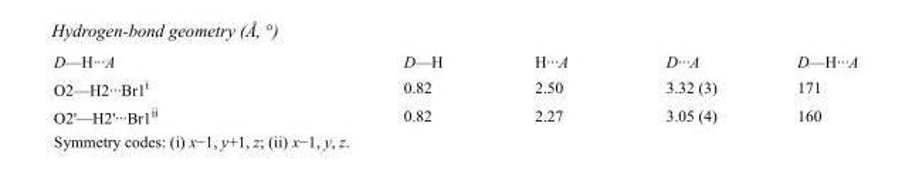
<table><tbody><tr><td>D—H···A</td><td>D—H</td><td>H···A</td><td>D···A</td><td>D—H···A</td></tr><tr><td>O2—H2···Br1<sup>i</sup></td><td>0.82</td><td>2.50</td><td>3.32 (3)</td><td>171</td></tr><tr><td>O2&#x27;—H2&#x27;···Br1<sup>ii</sup></td><td>0.82</td><td>2.27</td><td>3.05 (4)</td><td>160</td></tr></tbody></table>